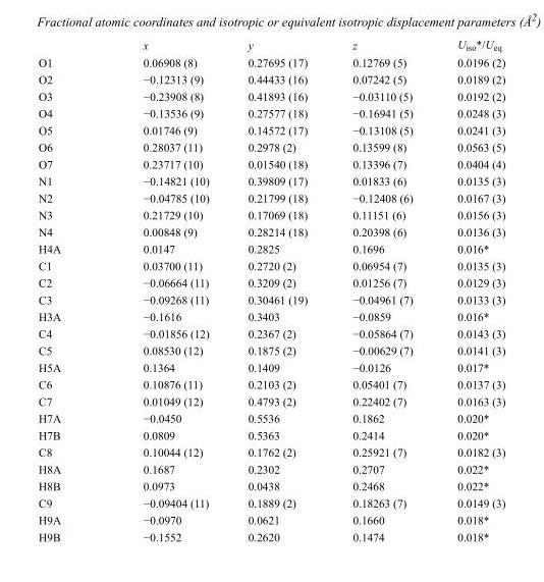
<table><thead><tr><td></td><td>x</td><td>y</td><td>z</td><td>U<sub>iso</sub>*/U<sub>eq</sub></td></tr></thead><tbody><tr><td>O1</td><td>0.06908 (8)</td><td>0.27695 (17)</td><td>0.12769 (5)</td><td>0.0196 (2)</td></tr><tr><td>O2</td><td>−0.12313 (9)</td><td>0.44433 (16)</td><td>0.07242 (5)</td><td>0.0189 (2)</td></tr><tr><td>O3</td><td>−0.23908 (8)</td><td>0.41893 (16)</td><td>−0.03110 (5)</td><td>0.0192 (2)</td></tr><tr><td>O4</td><td>−0.13536 (9)</td><td>0.27577 (18)</td><td>−0.16941 (5)</td><td>0.0248 (3)</td></tr><tr><td>O5</td><td>0.01746 (9)</td><td>0.14572 (17)</td><td>−0.13108 (5)</td><td>0.0241 (3)</td></tr><tr><td>O6</td><td>0.28037 (11)</td><td>0.2978 (2)</td><td>0.13599 (8)</td><td>0.0563 (5)</td></tr><tr><td>O7</td><td>0.23717 (10)</td><td>0.01540 (18)</td><td>0.13396 (7)</td><td>0.0404 (4)</td></tr><tr><td>N1</td><td>−0.14821 (10)</td><td>0.39809 (17)</td><td>0.01833 (6)</td><td>0.0135 (3)</td></tr><tr><td>N2</td><td>−0.04785 (10)</td><td>0.21799 (18)</td><td>−0.12408 (6)</td><td>0.0167 (3)</td></tr><tr><td>N3</td><td>0.21729 (10)</td><td>0.17069 (18)</td><td>0.11151 (6)</td><td>0.0156 (3)</td></tr><tr><td>N4</td><td>0.00848 (9)</td><td>0.28214 (18)</td><td>0.20398 (6)</td><td>0.0136 (3)</td></tr><tr><td>H4A</td><td>0.0147</td><td>0.2825</td><td>0.1696</td><td>0.016*</td></tr><tr><td>C1</td><td>0.03700 (11)</td><td>0.2720 (2)</td><td>0.06954 (7)</td><td>0.0135 (3)</td></tr><tr><td>C2</td><td>−0.06664 (11)</td><td>0.3209 (2)</td><td>0.01256 (7)</td><td>0.0129 (3)</td></tr><tr><td>C3</td><td>−0.09268 (11)</td><td>0.30461 (19)</td><td>−0.04961 (7)</td><td>0.0133 (3)</td></tr><tr><td>H3A</td><td>−0.1616</td><td>0.3403</td><td>−0.0859</td><td>0.016*</td></tr><tr><td>C4</td><td>−0.01856 (12)</td><td>0.2367 (2)</td><td>−0.05864 (7)</td><td>0.0143 (3)</td></tr><tr><td>C5</td><td>0.08530 (12)</td><td>0.1875 (2)</td><td>−0.00629 (7)</td><td>0.0141 (3)</td></tr><tr><td>H5A</td><td>0.1364</td><td>0.1409</td><td>−0.0126</td><td>0.017*</td></tr><tr><td>C6</td><td>0.10876 (11)</td><td>0.2103 (2)</td><td>0.05401 (7)</td><td>0.0137 (3)</td></tr><tr><td>C7</td><td>0.01049 (12)</td><td>0.4793 (2)</td><td>0.22402 (7)</td><td>0.0163 (3)</td></tr><tr><td>H7A</td><td>−0.0450</td><td>0.5536</td><td>0.1862</td><td>0.020*</td></tr><tr><td>H7B</td><td>0.0809</td><td>0.5363</td><td>0.2414</td><td>0.020*</td></tr><tr><td>C8</td><td>0.10044 (12)</td><td>0.1762 (2)</td><td>0.25921 (7)</td><td>0.0182 (3)</td></tr><tr><td>H8A</td><td>0.1687</td><td>0.2302</td><td>0.2707</td><td>0.022*</td></tr><tr><td>H8B</td><td>0.0973</td><td>0.0438</td><td>0.2468</td><td>0.022*</td></tr><tr><td>C9</td><td>−0.09404 (11)</td><td>0.1889 (2)</td><td>0.18263 (7)</td><td>0.0149 (3)</td></tr><tr><td>H9A</td><td>−0.0970</td><td>0.0621</td><td>0.1660</td><td>0.018*</td></tr><tr><td>H9B</td><td>−0.1552</td><td>0.2620</td><td>0.1474</td><td>0.018*</td></tr></tbody></table>